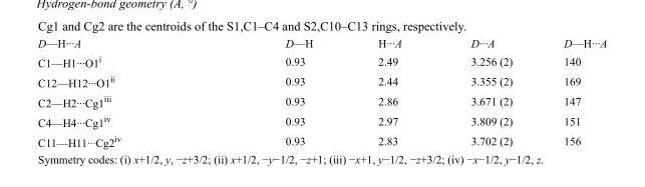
<table><tbody><tr><td>D—H···A</td><td>D—H</td><td>H···A</td><td>D···A</td><td>D—H···A</td></tr><tr><td>C1—H1···O1<sup>i</sup></td><td>0.93</td><td>2.49</td><td>3.256 (2)</td><td>140</td></tr><tr><td>C12—H12···O1<sup>ii</sup></td><td>0.93</td><td>2.44</td><td>3.355 (2)</td><td>169</td></tr><tr><td>C2—H2···Cg1<sup>iii</sup></td><td>0.93</td><td>2.86</td><td>3.671 (2)</td><td>147</td></tr><tr><td>C4—H4···Cg1<sup>iv</sup></td><td>0.93</td><td>2.97</td><td>3.809 (2)</td><td>151</td></tr><tr><td>C11—H11···Cg2<sup>iv</sup></td><td>0.93</td><td>2.83</td><td>3.702 (2)</td><td>156</td></tr></tbody></table>